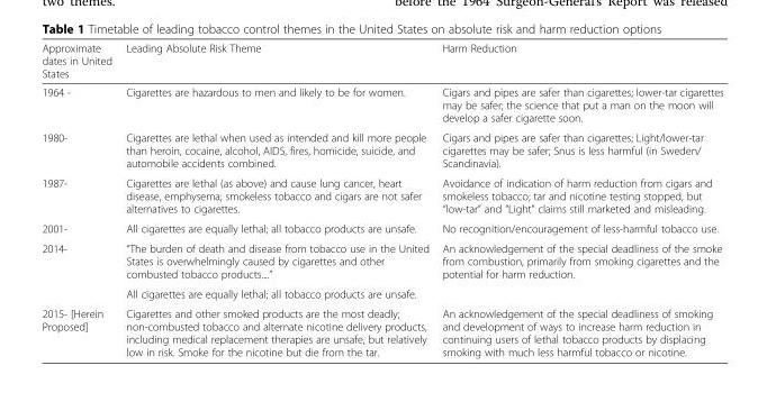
<table><thead><tr><td>Approximate dates in United States</td><td>Leading Absolute Risk Theme</td><td>Harm Reduction</td></tr></thead><tbody><tr><td>1964 -</td><td>Cigarettes are hazardous to men and likely to be for women.</td><td>Cigars and pipes are safer than cigarettes; lower-tar cigarettes may be safer; the science that put a man on the moon will develop a safer cigarette soon.</td></tr><tr><td>1980-</td><td>Cigarettes are lethal when used as intended and kill more people than heroin, cocaine, alcohol, AIDS, fires, homicide, suicide, and automobile accidents combined.</td><td>Cigars and pipes are safer than cigarettes; Light/lower-tar cigarettes may be safer; Snus is less harmful (in Sweden/ Scandinavia).</td></tr><tr><td>1987-</td><td>Cigarettes are lethal (as above) and cause lung cancer, heart disease, emphysema; smokeless tobacco and cigars are not safer alternatives to cigarettes.</td><td>Avoidance of indication of harm reduction from cigars and smokeless tobacco; tar and nicotine testing stopped, but “low-tar” and “Light” claims still marketed and misleading.</td></tr><tr><td>2001-</td><td>All cigarettes are equally lethal; all tobacco products are unsafe.</td><td>No recognition/encouragement of less-harmful tobacco use.</td></tr><tr><td rowspan="2">2014-</td><td>“The burden of death and disease from tobacco use in the United States is overwhelmingly caused by cigarettes and other combusted tobacco products....”</td><td rowspan="2">An acknowledgement of the special deadliness of the smoke from combustion, primarily from smoking cigarettes and the potential for harm reduction.</td></tr><tr><td>All cigarettes are equally lethal; all tobacco products are unsafe.</td></tr><tr><td>2015- [Herein Proposed]</td><td>Cigarettes and other smoked products are the most deadly; non-combusted tobacco and alternate nicotine delivery products, including medical replacement therapies are unsafe, but relatively low in risk. Smoke for the nicotine but die from the tar.</td><td>An acknowledgement of the special deadliness of smoking and development of ways to increase harm reduction in continuing users of lethal tobacco products by displacing smoking with much less harmful tobacco or nicotine.</td></tr></tbody></table>